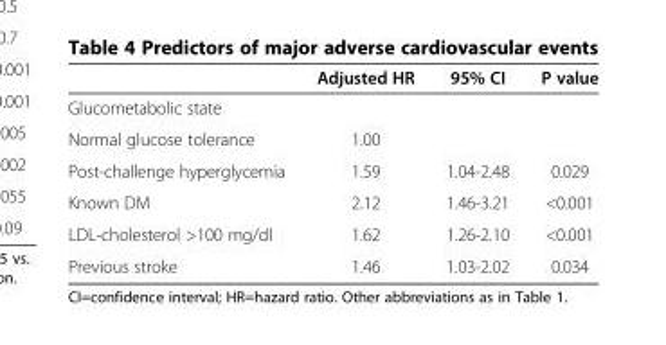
<table><thead><tr><td></td><td>Adjusted HR</td><td>95% CI</td><td>P value</td></tr></thead><tbody><tr><td colspan="4">Glucometabolic state</td></tr><tr><td>Normal glucose tolerance</td><td>1.00</td><td></td><td></td></tr><tr><td>Post-challenge hyperglycemia</td><td>1.59</td><td>1.04-2.48</td><td>0.029</td></tr><tr><td>Known DM</td><td>2.12</td><td>1.46-3.21</td><td>&lt;0.001</td></tr><tr><td>LDL-cholesterol &gt;100 mg/dl</td><td>1.62</td><td>1.26-2.10</td><td>&lt;0.001</td></tr><tr><td>Previous stroke</td><td>1.46</td><td>1.03-2.02</td><td>0.034</td></tr></tbody></table>